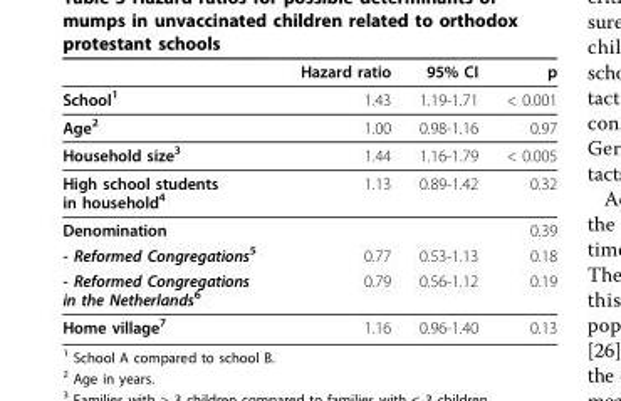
<table><thead><tr><td></td><td>Hazard ratio</td><td>95% CI</td><td>p</td></tr></thead><tbody><tr><td>School<sup>1</sup></td><td>1.43</td><td>1.19-1.71</td><td>&lt; 0.001</td></tr><tr><td>Age<sup>2</sup></td><td>1.00</td><td>0.98-1.16</td><td>0.97</td></tr><tr><td>Household size<sup>3</sup></td><td>1.44</td><td>1.16-1.79</td><td>&lt; 0.005</td></tr><tr><td>High school students in household<sup>4</sup></td><td>1.13</td><td>0.89-1.42</td><td>0.32</td></tr><tr><td>Denomination</td><td></td><td></td><td>0.39</td></tr><tr><td>- Reformed Congregations<sup>5</sup></td><td>0.77</td><td>0.53-1.13</td><td>0.18</td></tr><tr><td>- Reformed Congregations in the Netherlands<sup>6</sup></td><td>0.79</td><td>0.56-1.12</td><td>0.19</td></tr><tr><td>Home village<sup>7</sup></td><td>1.16</td><td>0.96-1.40</td><td>0.13</td></tr></tbody></table>